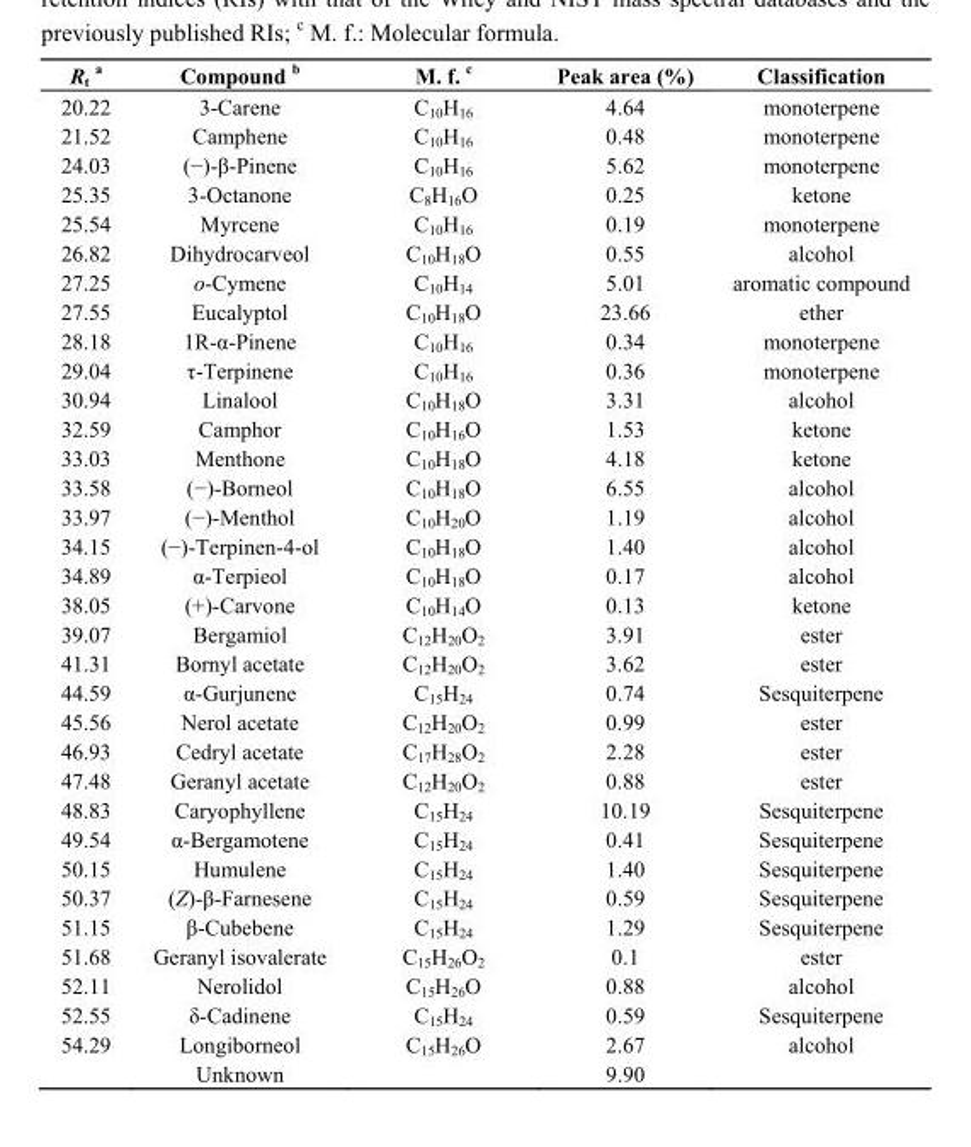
<table><thead><tr><td>R<sub>t</sub> <sup>a</sup></td><td>Compound b</td><td>M. f. c</td><td>Peak area (%)</td><td>Classification</td></tr></thead><tbody><tr><td>20.22</td><td>3-Carene</td><td>C<sub>10</sub>H<sub>16</sub></td><td>4.64</td><td>monoterpene</td></tr><tr><td>21.52</td><td>Camphene</td><td>C<sub>10</sub>H<sub>16</sub></td><td>0.48</td><td>monoterpene</td></tr><tr><td>24.03</td><td>(−)-β-Pinene</td><td>C<sub>10</sub>H<sub>16</sub></td><td>5.62</td><td>monoterpene</td></tr><tr><td>25.35</td><td>3-Octanone</td><td>C<sub>8</sub>H<sub>16</sub>O</td><td>0.25</td><td>ketone</td></tr><tr><td>25.54</td><td>Myrcene</td><td>C<sub>10</sub>H<sub>16</sub></td><td>0.19</td><td>monoterpene</td></tr><tr><td>26.82</td><td>Dihydrocarveol</td><td>C<sub>10</sub>H<sub>18</sub>O</td><td>0.55</td><td>alcohol</td></tr><tr><td>27.25</td><td>o-Cymene</td><td>C<sub>10</sub>H<sub>14</sub></td><td>5.01</td><td>aromatic compound</td></tr><tr><td>27.55</td><td>Eucalyptol</td><td>C<sub>10</sub>H<sub>18</sub>O</td><td>23.66</td><td>ether</td></tr><tr><td>28.18</td><td>1R-α-Pinene</td><td>C<sub>10</sub>H<sub>16</sub></td><td>0.34</td><td>monoterpene</td></tr><tr><td>29.04</td><td>τ-Terpinene</td><td>C<sub>10</sub>H<sub>16</sub></td><td>0.36</td><td>monoterpene</td></tr><tr><td>30.94</td><td>Linalool</td><td>C<sub>10</sub>H<sub>18</sub>O</td><td>3.31</td><td>alcohol</td></tr><tr><td>32.59</td><td>Camphor</td><td>C<sub>10</sub>H<sub>16</sub>O</td><td>1.53</td><td>ketone</td></tr><tr><td>33.03</td><td>Menthone</td><td>C<sub>10</sub>H<sub>18</sub>O</td><td>4.18</td><td>ketone</td></tr><tr><td>33.58</td><td>(−)-Borneol</td><td>C<sub>10</sub>H<sub>18</sub>O</td><td>6.55</td><td>alcohol</td></tr><tr><td>33.97</td><td>(−)-Menthol</td><td>C<sub>10</sub>H<sub>20</sub>O</td><td>1.19</td><td>alcohol</td></tr><tr><td>34.15</td><td>(−)-Terpinen-4-ol</td><td>C<sub>10</sub>H<sub>18</sub>O</td><td>1.40</td><td>alcohol</td></tr><tr><td>34.89</td><td>α-Terpieol</td><td>C<sub>10</sub>H<sub>18</sub>O</td><td>0.17</td><td>alcohol</td></tr><tr><td>38.05</td><td>(+)-Carvone</td><td>C<sub>10</sub>H<sub>14</sub>O</td><td>0.13</td><td>ketone</td></tr><tr><td>39.07</td><td>Bergamiol</td><td>C<sub>12</sub>H<sub>20</sub>O<sub>2</sub></td><td>3.91</td><td>ester</td></tr><tr><td>41.31</td><td>Bornyl acetate</td><td>C<sub>12</sub>H<sub>20</sub>O<sub>2</sub></td><td>3.62</td><td>ester</td></tr><tr><td>44.59</td><td>α-Gurjunene</td><td>C<sub>15</sub>H<sub>24</sub></td><td>0.74</td><td>Sesquiterpene</td></tr><tr><td>45.56</td><td>Nerol acetate</td><td>C<sub>12</sub>H<sub>20</sub>O<sub>2</sub></td><td>0.99</td><td>ester</td></tr><tr><td>46.93</td><td>Cedryl acetate</td><td>C<sub>17</sub>H<sub>28</sub>O<sub>2</sub></td><td>2.28</td><td>ester</td></tr><tr><td>47.48</td><td>Geranyl acetate</td><td>C<sub>12</sub>H<sub>20</sub>O<sub>2</sub></td><td>0.88</td><td>ester</td></tr><tr><td>48.83</td><td>Caryophyllene</td><td>C<sub>15</sub>H<sub>24</sub></td><td>10.19</td><td>Sesquiterpene</td></tr><tr><td>49.54</td><td>α-Bergamotene</td><td>C<sub>15</sub>H<sub>24</sub></td><td>0.41</td><td>Sesquiterpene</td></tr><tr><td>50.15</td><td>Humulene</td><td>C<sub>15</sub>H<sub>24</sub></td><td>1.40</td><td>Sesquiterpene</td></tr><tr><td>50.37</td><td>(Z)-β-Farnesene</td><td>C<sub>15</sub>H<sub>24</sub></td><td>0.59</td><td>Sesquiterpene</td></tr><tr><td>51.15</td><td>β-Cubebene</td><td>C<sub>15</sub>H<sub>24</sub></td><td>1.29</td><td>Sesquiterpene</td></tr><tr><td>51.68</td><td>Geranyl isovalerate</td><td>C<sub>15</sub>H<sub>26</sub>O<sub>2</sub></td><td>0.1</td><td>ester</td></tr><tr><td>52.11</td><td>Nerolidol</td><td>C<sub>15</sub>H<sub>26</sub>O</td><td>0.88</td><td>alcohol</td></tr><tr><td>52.55</td><td>δ-Cadinene</td><td>C<sub>15</sub>H<sub>24</sub></td><td>0.59</td><td>Sesquiterpene</td></tr><tr><td rowspan="2">54.29</td><td>Longiborneol</td><td>C<sub>15</sub>H<sub>26</sub>O</td><td>2.67</td><td>alcohol</td></tr><tr><td>Unknown</td><td></td><td>9.90</td><td></td></tr></tbody></table>